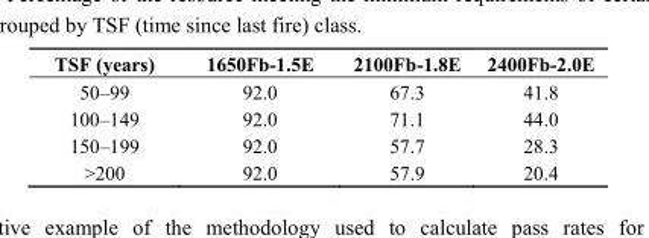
<table><thead><tr><td>TSF (years)</td><td>1650Fb-1.5E</td><td>2100Fb-1.8E</td><td>2400Fb-2.0E</td></tr></thead><tbody><tr><td>50–99</td><td>92.0</td><td>67.3</td><td>41.8</td></tr><tr><td>100–149</td><td>92.0</td><td>71.1</td><td>44.0</td></tr><tr><td>150–199</td><td>92.0</td><td>57.7</td><td>28.3</td></tr><tr><td>&gt;200</td><td>92.0</td><td>57.9</td><td>20.4</td></tr></tbody></table>